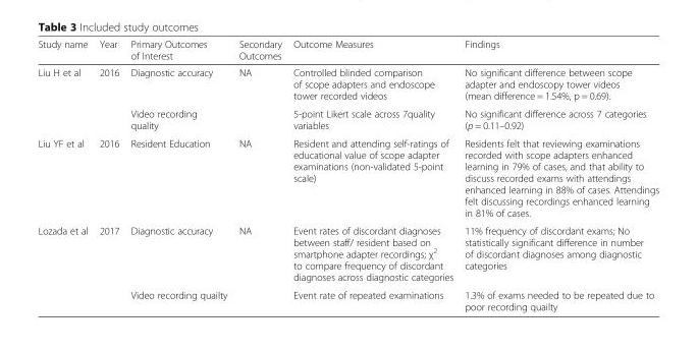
<table><thead><tr><td>Study name</td><td>Year</td><td>Primary Outcomes of Interest</td><td>Secondary Outcomes</td><td>Outcome Measures</td><td>Findings</td></tr></thead><tbody><tr><td rowspan="2">Liu H et al</td><td>2016</td><td>Diagnostic accuracy</td><td>NA</td><td>Controlled blinded comparison of scope adapters and endoscope tower recorded videos</td><td>No significant difference between scope adapter and endoscopy tower videos (mean difference = 1.54%, p = 0.69).</td></tr><tr><td></td><td>Video recording quality</td><td></td><td>5-point Likert scale across 7quality variables</td><td>No significant difference across 7 categories (p = 0.11–0.92)</td></tr><tr><td>Liu YF et al</td><td>2016</td><td>Resident Education</td><td>NA</td><td>Resident and attending self-ratings of educational value of scope adapter examinations (non-validated 5-point scale)</td><td>Residents felt that reviewing examinations recorded with scope adapters enhanced learning in 79% of cases, and that ability to discuss recorded exams with attendings enhanced learning in 88% of cases. Attendings felt discussing recordings enhanced learning in 81% of cases.</td></tr><tr><td rowspan="2">Lozada et al</td><td>2017</td><td>Diagnostic accuracy</td><td>NA</td><td>Event rates of discordant diagnoses between staff/ resident based on smartphone adapter recordings; χ<sup>2</sup> to compare frequency of discordant diagnoses across diagnostic categories</td><td>11% frequency of discordant exams; No statistically significant difference in number of discordant diagnoses among diagnostic categories</td></tr><tr><td></td><td>Video recording quailty</td><td></td><td>Event rate of repeated examinations</td><td>1.3% of exams needed to be repeated due to poor recording quailty</td></tr></tbody></table>